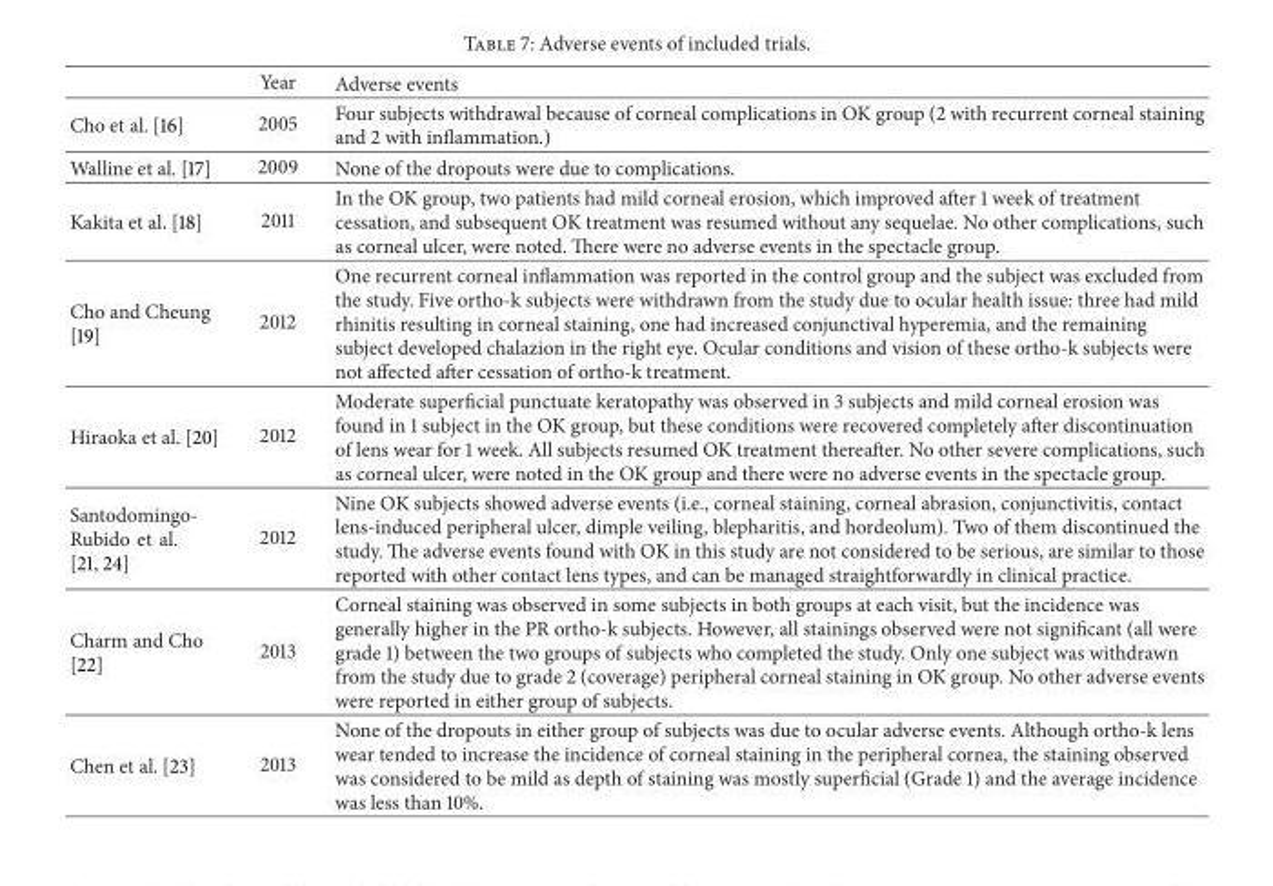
<table><thead><tr><td></td><td>Year</td><td>Adverse events</td></tr></thead><tbody><tr><td>Cho et al. [16]</td><td>2005</td><td>Four subjects withdrawal because of corneal complications in OK group (2 with recurrent corneal staining and 2 with inflammation.)</td></tr><tr><td>Walline et al. [17]</td><td>2009</td><td>None of the dropouts were due to complications.</td></tr><tr><td>Kakita et al. [18]</td><td>2011</td><td>In the OK group, two patients had mild corneal erosion, which improved after 1 week of treatment cessation, and subsequent OK treatment was resumed without any sequelae. No other complications, such as corneal ulcer, were noted. There were no adverse events in the spectacle group.</td></tr><tr><td>Cho and Cheung [19]</td><td>2012</td><td>One recurrent corneal inflammation was reported in the control group and the subject was excluded from the study. Five ortho-k subjects were withdrawn from the study due to ocular health issue: three had mild rhinitis resulting in corneal staining, one had increased conjunctival hyperemia, and the remaining subject developed chalazion in the right eye. Ocular conditions and vision of these ortho-k subjects were not affected after cessation of ortho-k treatment.</td></tr><tr><td>Hiraoka et al. [20]</td><td>2012</td><td>Moderate superficial punctuate keratopathy was observed in 3 subjects and mild corneal erosion was found in 1 subject in the OK group, but these conditions were recovered completely after discontinuation of lens wear for 1 week. All subjects resumed OK treatment thereafter. No other severe complications, such as corneal ulcer, were noted in the OK group and there were no adverse events in the spectacle group.</td></tr><tr><td>Santodomingo- Rubido et al. [21, 24]</td><td>2012</td><td>Nine OK subjects showed adverse events (i.e., corneal staining, corneal abrasion, conjunctivitis, contact lens-induced peripheral ulcer, dimple veiling, blepharitis, and hordeolum). Two of them discontinued the study. The adverse events found with OK in this study are not considered to be serious, are similar to those reported with other contact lens types, and can be managed straightforwardly in clinical practice.</td></tr><tr><td>Charm and Cho [22]</td><td>2013</td><td>Corneal staining was observed in some subjects in both groups at each visit, but the incidence was generally higher in the PR ortho-k subjects. However, all stainings observed were not significant (all were grade 1) between the two groups of subjects who completed the study. Only one subject was withdrawn from the study due to grade 2 (coverage) peripheral corneal staining in OK group. No other adverse events were reported in either group of subjects.</td></tr><tr><td>Chen et al. [23]</td><td>2013</td><td>None of the dropouts in either group of subjects was due to ocular adverse events. Although ortho-k lens wear tended to increase the incidence of corneal staining in the peripheral cornea, the staining observed was considered to be mild as depth of staining was mostly superficial (Grade 1) and the average incidence was less than 10%.</td></tr></tbody></table>